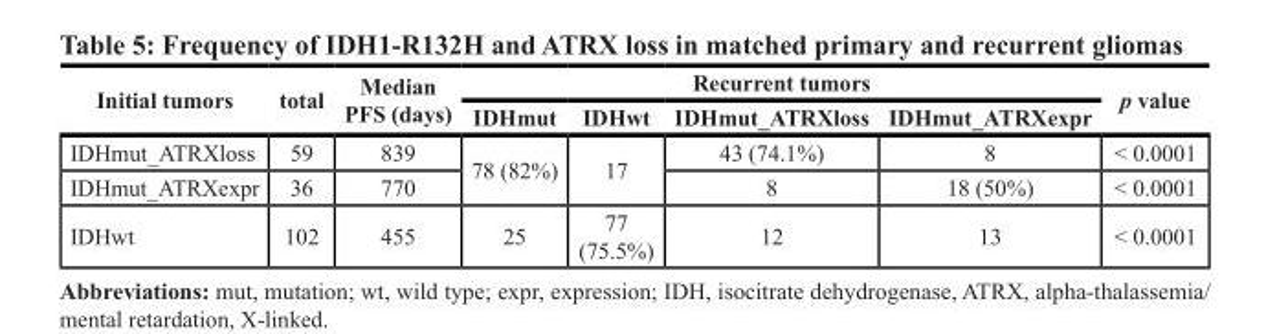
<table><thead><tr><td rowspan="2">Initial tumors</td><td rowspan="2">total</td><td rowspan="2">Median PFS (days)</td><td colspan="4">Recurrent tumors</td><td rowspan="2">p value</td></tr><tr><td>IDHmut</td><td>IDHwt</td><td>IDHmut_ATRXloss</td><td>IDHmut_ATRXexpr</td></tr></thead><tbody><tr><td>IDHmut_ATRXloss</td><td>59</td><td>839</td><td rowspan="2">78 (82%)</td><td rowspan="2">17</td><td>43 (74.1%)</td><td>8</td><td>&lt; 0.0001</td></tr><tr><td>IDHmut_ATRXexpr</td><td>36</td><td>770</td><td>8</td><td>18 (50%)</td><td>&lt; 0.0001</td></tr><tr><td>IDHwt</td><td>102</td><td>455</td><td>25</td><td>77 (75.5%)</td><td>12</td><td>13</td><td>&lt; 0.0001</td></tr></tbody></table>